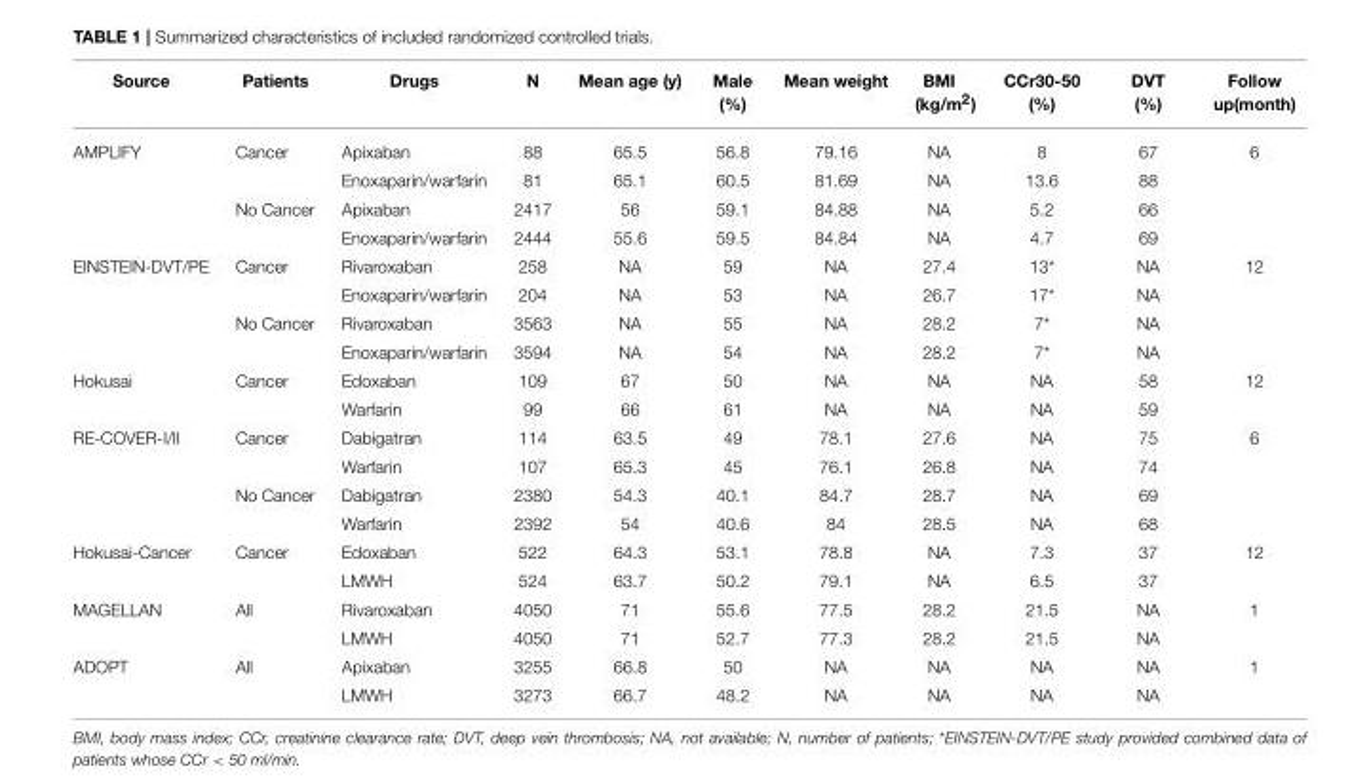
<table><thead><tr><td>Source</td><td>Patients</td><td>Drugs</td><td>N</td><td>Mean age (y)</td><td>Male (%)</td><td>Mean weight</td><td>BMI (kg/m<sup>2</sup>)</td><td>CCr30-50 (%)</td><td>DVT (%)</td><td>Follow up(month)</td></tr></thead><tbody><tr><td rowspan="4">AMPLIFY</td><td>Cancer</td><td>Apixaban</td><td>88</td><td>65.5</td><td>56.8</td><td>79.16</td><td>NA</td><td>8</td><td>67</td><td>6</td></tr><tr><td></td><td>Enoxaparin/warfarin</td><td>81</td><td>65.1</td><td>60.5</td><td>81.69</td><td>NA</td><td>13.6</td><td>88</td><td></td></tr><tr><td>No Cancer</td><td>Apixaban</td><td>2417</td><td>56</td><td>59.1</td><td>84.88</td><td>NA</td><td>5.2</td><td>66</td><td></td></tr><tr><td></td><td>Enoxaparin/warfarin</td><td>2444</td><td>55.6</td><td>59.5</td><td>84.84</td><td>NA</td><td>4.7</td><td>69</td><td></td></tr><tr><td rowspan="4">EINSTEIN-DVT/PE</td><td>Cancer</td><td>Rivaroxaban</td><td>258</td><td>NA</td><td>59</td><td>NA</td><td>27.4</td><td>13*</td><td>NA</td><td>12</td></tr><tr><td></td><td>Enoxaparin/warfarin</td><td>204</td><td>NA</td><td>53</td><td>NA</td><td>26.7</td><td>17*</td><td>NA</td><td></td></tr><tr><td>No Cancer</td><td>Rivaroxaban</td><td>3563</td><td>NA</td><td>55</td><td>NA</td><td>28.2</td><td>7*</td><td>NA</td><td></td></tr><tr><td></td><td>Enoxaparin/warfarin</td><td>3594</td><td>NA</td><td>54</td><td>NA</td><td>28.2</td><td>7*</td><td>NA</td><td></td></tr><tr><td rowspan="2">Hokusai</td><td>Cancer</td><td>Edoxaban</td><td>109</td><td>67</td><td>50</td><td>NA</td><td>NA</td><td>NA</td><td>58</td><td>12</td></tr><tr><td></td><td>Warfarin</td><td>99</td><td>66</td><td>61</td><td>NA</td><td>NA</td><td>NA</td><td>59</td><td></td></tr><tr><td rowspan="4">RE-COVER-I/II</td><td>Cancer</td><td>Dabigatran</td><td>114</td><td>63.5</td><td>49</td><td>78.1</td><td>27.6</td><td>NA</td><td>75</td><td>6</td></tr><tr><td></td><td>Warfarin</td><td>107</td><td>65.3</td><td>45</td><td>76.1</td><td>26.8</td><td>NA</td><td>74</td><td></td></tr><tr><td>No Cancer</td><td>Dabigatran</td><td>2380</td><td>54.3</td><td>40.1</td><td>84.7</td><td>28.7</td><td>NA</td><td>69</td><td></td></tr><tr><td></td><td>Warfarin</td><td>2392</td><td>54</td><td>40.6</td><td>84</td><td>28.5</td><td>NA</td><td>68</td><td></td></tr><tr><td rowspan="2">Hokusai-Cancer</td><td>Cancer</td><td>Edoxaban</td><td>522</td><td>64.3</td><td>53.1</td><td>78.8</td><td>NA</td><td>7.3</td><td>37</td><td>12</td></tr><tr><td></td><td>LMWH</td><td>524</td><td>63.7</td><td>50.2</td><td>79.1</td><td>NA</td><td>6.5</td><td>37</td><td></td></tr><tr><td rowspan="2">MAGELLAN</td><td>All</td><td>Rivaroxaban</td><td>4050</td><td>71</td><td>55.6</td><td>77.5</td><td>28.2</td><td>21.5</td><td>NA</td><td>1</td></tr><tr><td></td><td>LMWH</td><td>4050</td><td>71</td><td>52.7</td><td>77.3</td><td>28.2</td><td>21.5</td><td>NA</td><td></td></tr><tr><td rowspan="2">ADOPT</td><td>All</td><td>Apixaban</td><td>3255</td><td>66.8</td><td>50</td><td>NA</td><td>NA</td><td>NA</td><td>NA</td><td>1</td></tr><tr><td></td><td>LMWH</td><td>3273</td><td>66.7</td><td>48.2</td><td>NA</td><td>NA</td><td>NA</td><td>NA</td><td></td></tr></tbody></table>